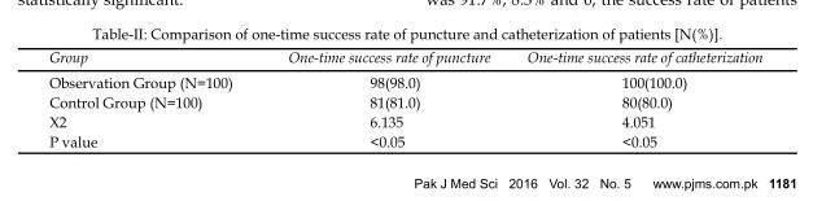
<table><thead><tr><td>Group</td><td>One-time success rate of puncture</td><td>One-time success rate of catheterization</td></tr></thead><tbody><tr><td>Observation Group (N=100)</td><td>98(98.0)</td><td>100(100.0)</td></tr><tr><td>Control Group (N=100)</td><td>81(81.0)</td><td>80(80.0)</td></tr><tr><td>X2</td><td>6.135</td><td>4.051</td></tr><tr><td>P value</td><td>&lt;0.05</td><td>&lt;0.05</td></tr></tbody></table>